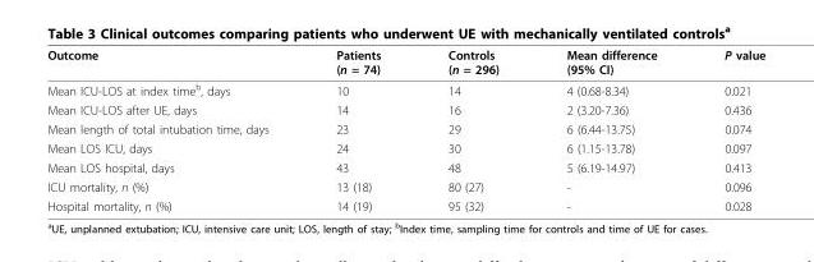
<table><thead><tr><td>Outcome</td><td>Patients (n = 74)</td><td>Controls (n = 296)</td><td>Mean difference (95% CI)</td><td>P value</td></tr></thead><tbody><tr><td>Mean ICU-LOS at index time<sup>b</sup>, days</td><td>10</td><td>14</td><td>4 (0.68-8.34)</td><td>0.021</td></tr><tr><td>Mean ICU-LOS after UE, days</td><td>14</td><td>16</td><td>2 (3.20-7.36)</td><td>0.436</td></tr><tr><td>Mean length of total intubation time, days</td><td>23</td><td>29</td><td>6 (6.44-13.75)</td><td>0.074</td></tr><tr><td>Mean LOS ICU, days</td><td>24</td><td>30</td><td>6 (1.15-13.78)</td><td>0.097</td></tr><tr><td>Mean LOS hospital, days</td><td>43</td><td>48</td><td>5 (6.19-14.97)</td><td>0.413</td></tr><tr><td>ICU mortality, n (%)</td><td>13 (18)</td><td>80 (27)</td><td>-</td><td>0.096</td></tr><tr><td>Hospital mortality, n (%)</td><td>14 (19)</td><td>95 (32)</td><td>-</td><td>0.028</td></tr></tbody></table>